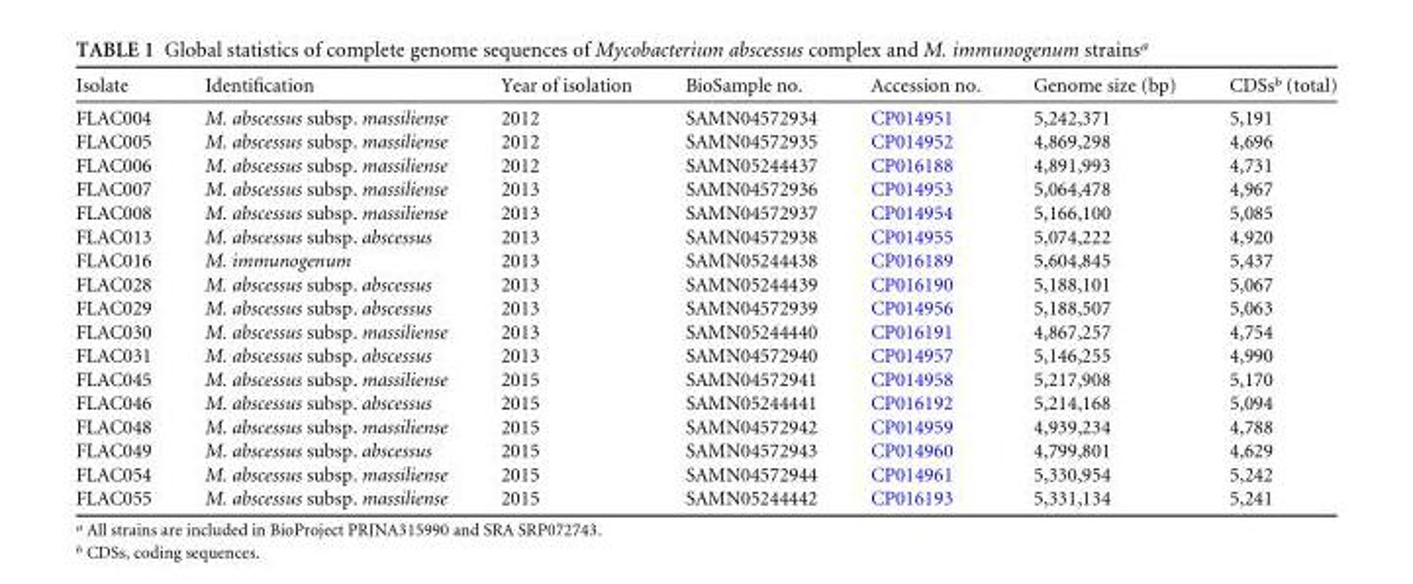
<table><thead><tr><td>Isolate</td><td>Identification</td><td>Year of isolation</td><td>BioSample no.</td><td>Accession no.</td><td>Genome size (bp)</td><td>CDSs<sup>b</sup> (total)</td></tr></thead><tbody><tr><td>FLAC004</td><td>M. abscessus subsp. massiliense</td><td>2012</td><td>SAMN04572934</td><td>CP014951</td><td>5,242,371</td><td>5,191</td></tr><tr><td>FLAC005</td><td>M. abscessus subsp. massiliense</td><td>2012</td><td>SAMN04572935</td><td>CP014952</td><td>4,869,298</td><td>4,696</td></tr><tr><td>FLAC006</td><td>M. abscessus subsp. massiliense</td><td>2012</td><td>SAMN05244437</td><td>CP016188</td><td>4,891,993</td><td>4,731</td></tr><tr><td>FLAC007</td><td>M. abscessus subsp. massiliense</td><td>2013</td><td>SAMN04572936</td><td>CP014953</td><td>5,064,478</td><td>4,967</td></tr><tr><td>FLAC008</td><td>M. abscessus subsp. massiliense</td><td>2013</td><td>SAMN04572937</td><td>CP014954</td><td>5,166,100</td><td>5,085</td></tr><tr><td>FLAC013</td><td>M. abscessus subsp. abscessus</td><td>2013</td><td>SAMN04572938</td><td>CP014955</td><td>5,074,222</td><td>4,920</td></tr><tr><td>FLAC016</td><td>M. immunogenum</td><td>2013</td><td>SAMN05244438</td><td>CP016189</td><td>5,604,845</td><td>5,437</td></tr><tr><td>FLAC028</td><td>M. abscessus subsp. abscessus</td><td>2013</td><td>SAMN05244439</td><td>CP016190</td><td>5,188,101</td><td>5,067</td></tr><tr><td>FLAC029</td><td>M. abscessus subsp. abscessus</td><td>2013</td><td>SAMN04572939</td><td>CP014956</td><td>5,188,507</td><td>5,063</td></tr><tr><td>FLAC030</td><td>M. abscessus subsp. massiliense</td><td>2013</td><td>SAMN05244440</td><td>CP016191</td><td>4,867,257</td><td>4,754</td></tr><tr><td>FLAC031</td><td>M. abscessus subsp. abscessus</td><td>2013</td><td>SAMN04572940</td><td>CP014957</td><td>5,146,255</td><td>4,990</td></tr><tr><td>FLAC045</td><td>M. abscessus subsp. massiliense</td><td>2015</td><td>SAMN04572941</td><td>CP014958</td><td>5,217,908</td><td>5,170</td></tr><tr><td>FLAC046</td><td>M. abscessus subsp. abscessus</td><td>2015</td><td>SAMN05244441</td><td>CP016192</td><td>5,214,168</td><td>5,094</td></tr><tr><td>FLAC048</td><td>M. abscessus subsp. massiliense</td><td>2015</td><td>SAMN04572942</td><td>CP014959</td><td>4,939,234</td><td>4,788</td></tr><tr><td>FLAC049</td><td>M. abscessus subsp. abscessus</td><td>2015</td><td>SAMN04572943</td><td>CP014960</td><td>4,799,801</td><td>4,629</td></tr><tr><td>FLAC054</td><td>M. abscessus subsp. massiliense</td><td>2015</td><td>SAMN04572944</td><td>CP014961</td><td>5,330,954</td><td>5,242</td></tr><tr><td>FLAC055</td><td>M. abscessus subsp. massiliense</td><td>2015</td><td>SAMN05244442</td><td>CP016193</td><td>5,331,134</td><td>5,241</td></tr></tbody></table>